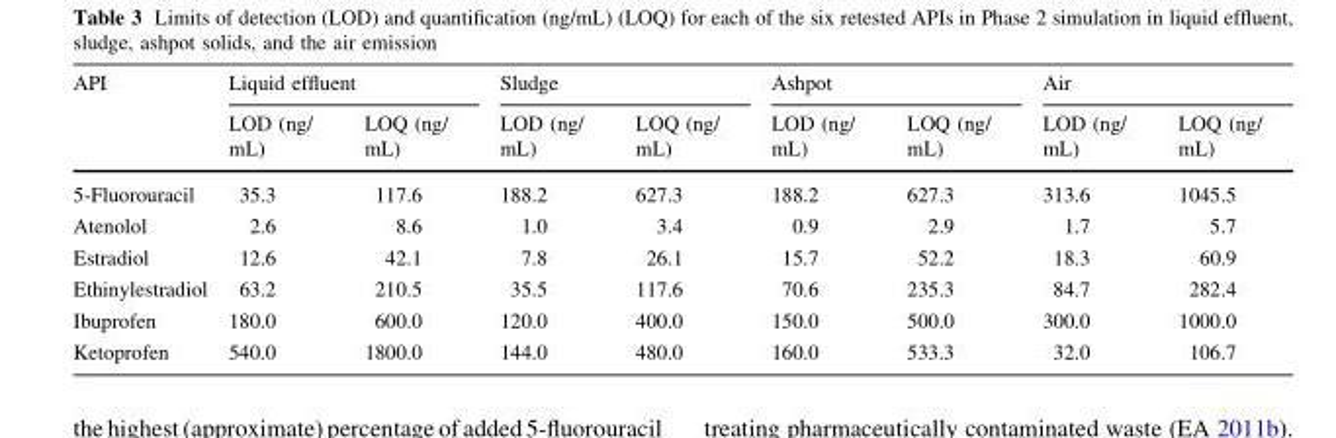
<table><thead><tr><td rowspan="2">API</td><td colspan="2">Liquid effluent</td><td colspan="2">Sludge</td><td colspan="2">Ashpot</td><td colspan="2">Air</td></tr><tr><td>LOD (ng/ mL)</td><td>LOQ (ng/ mL)</td><td>LOD (ng/ mL)</td><td>LOQ (ng/ mL)</td><td>LOD (ng/ mL)</td><td>LOQ (ng/ mL)</td><td>LOD (ng/ mL)</td><td>LOQ (ng/ mL)</td></tr></thead><tbody><tr><td>5-Fluorouracil</td><td>35.3</td><td>117.6</td><td>188.2</td><td>627.3</td><td>188.2</td><td>627.3</td><td>313.6</td><td>1045.5</td></tr><tr><td>Atenolol</td><td>2.6</td><td>8.6</td><td>1.0</td><td>3.4</td><td>0.9</td><td>2.9</td><td>1.7</td><td>5.7</td></tr><tr><td>Estradiol</td><td>12.6</td><td>42.1</td><td>7.8</td><td>26.1</td><td>15.7</td><td>52.2</td><td>18.3</td><td>60.9</td></tr><tr><td>Ethinylestradiol</td><td>63.2</td><td>210.5</td><td>35.5</td><td>117.6</td><td>70.6</td><td>235.3</td><td>84.7</td><td>282.4</td></tr><tr><td>Ibuprofen</td><td>180.0</td><td>600.0</td><td>120.0</td><td>400.0</td><td>150.0</td><td>500.0</td><td>300.0</td><td>1000.0</td></tr><tr><td>Ketoprofen</td><td>540.0</td><td>1800.0</td><td>144.0</td><td>480.0</td><td>160.0</td><td>533.3</td><td>32.0</td><td>106.7</td></tr></tbody></table>